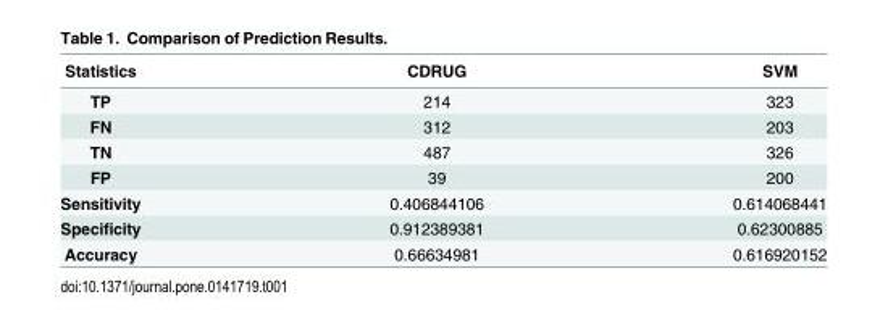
<table><thead><tr><td>Statistics</td><td>CDRUG</td><td>SVM</td></tr></thead><tbody><tr><td>TP</td><td>214</td><td>323</td></tr><tr><td>FN</td><td>312</td><td>203</td></tr><tr><td>TN</td><td>487</td><td>326</td></tr><tr><td>FP</td><td>39</td><td>200</td></tr><tr><td>Sensitivity</td><td>0.406844106</td><td>0.614068441</td></tr><tr><td>Specificity</td><td>0.912389381</td><td>0.62300885</td></tr><tr><td>Accuracy</td><td>0.66634981</td><td>0.616920152</td></tr></tbody></table>